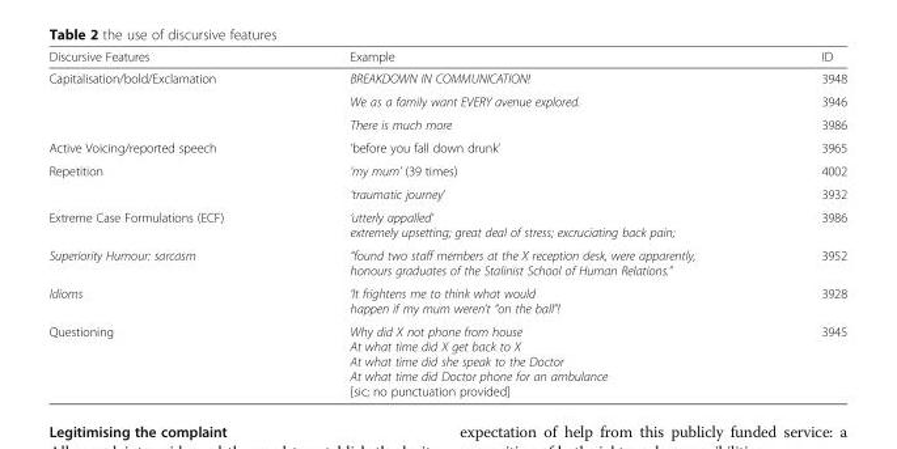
<table><thead><tr><td>Discursive Features</td><td>Example</td><td>ID</td></tr></thead><tbody><tr><td rowspan="3">Capitalisation/bold/Exclamation</td><td>BREAKDOWN IN COMMUNICATION!</td><td>3948</td></tr><tr><td>We as a family want EVERY avenue explored.</td><td>3946</td></tr><tr><td>There is much more</td><td>3986</td></tr><tr><td>Active Voicing/reported speech</td><td>‘before you fall down drunk’</td><td>3965</td></tr><tr><td rowspan="2">Repetition</td><td>‘my mum’ (39 times)</td><td>4002</td></tr><tr><td>‘traumatic journey’</td><td>3932</td></tr><tr><td>Extreme Case Formulations (ECF)</td><td>‘utterly appalled’ extremely upsetting; great deal of stress; excruciating back pain;</td><td>3986</td></tr><tr><td>Superiority Humour: sarcasm</td><td>“found two staff members at the X reception desk, were apparently, honours graduates of the Stalinist School of Human Relations.”</td><td>3952</td></tr><tr><td>Idioms</td><td>‘It frightens me to think what would happen if my mum weren’t “on the ball”!</td><td>3928</td></tr><tr><td>Questioning</td><td>Why did X not phone from house At what time did X get back to X At what time did she speak to the Doctor At what time did Doctor phone for an ambulance [sic; no punctuation provided]</td><td>3945</td></tr></tbody></table>